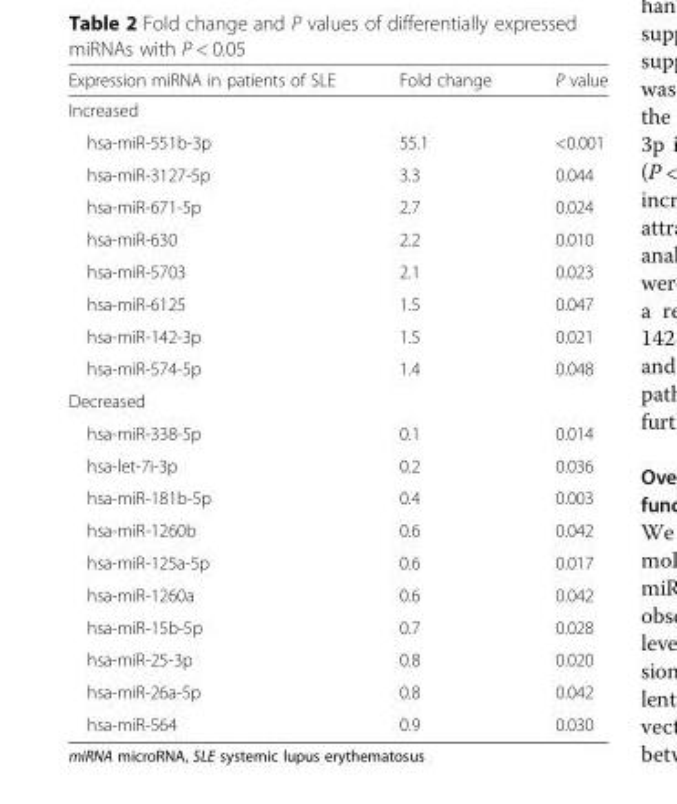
<table><thead><tr><td>Expression miRNA in patients of SLE</td><td>Fold change</td><td>P value</td></tr></thead><tbody><tr><td colspan="3">Increased</td></tr><tr><td>hsa-miR-551b-3p</td><td>55.1</td><td>&lt;0.001</td></tr><tr><td>hsa-miR-3127-5p</td><td>3.3</td><td>0.044</td></tr><tr><td>hsa-miR-671-5p</td><td>2.7</td><td>0.024</td></tr><tr><td>hsa-miR-630</td><td>2.2</td><td>0.010</td></tr><tr><td>hsa-miR-5703</td><td>2.1</td><td>0.023</td></tr><tr><td>hsa-miR-6125</td><td>1.5</td><td>0.047</td></tr><tr><td>hsa-miR-142-3p</td><td>1.5</td><td>0.021</td></tr><tr><td>hsa-miR-574-5p</td><td>1.4</td><td>0.048</td></tr><tr><td colspan="3">Decreased</td></tr><tr><td>hsa-miR-338-5p</td><td>0.1</td><td>0.014</td></tr><tr><td>hsa-let-7i-3p</td><td>0.2</td><td>0.036</td></tr><tr><td>hsa-miR-181b-5p</td><td>0.4</td><td>0.003</td></tr><tr><td>hsa-miR-1260b</td><td>0.6</td><td>0.042</td></tr><tr><td>hsa-miR-125a-5p</td><td>0.6</td><td>0.017</td></tr><tr><td>hsa-miR-1260a</td><td>0.6</td><td>0.042</td></tr><tr><td>hsa-miR-15b-5p</td><td>0.7</td><td>0.028</td></tr><tr><td>hsa-miR-25-3p</td><td>0.8</td><td>0.020</td></tr><tr><td>hsa-miR-26a-5p</td><td>0.8</td><td>0.042</td></tr><tr><td>hsa-miR-564</td><td>0.9</td><td>0.030</td></tr></tbody></table>